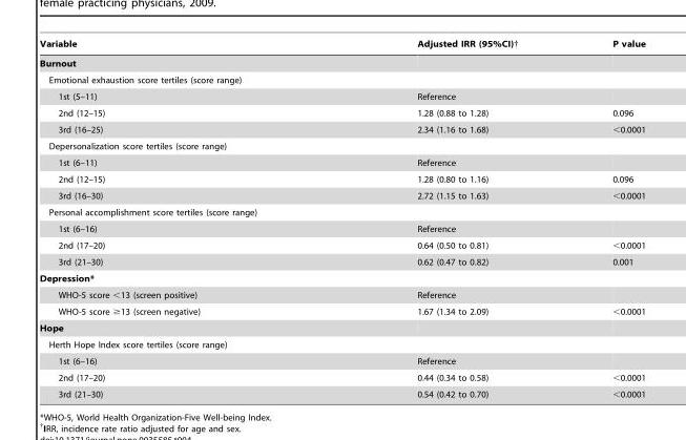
<table><thead><tr><td>Variable</td><td>Adjusted IRR (95%CI)†</td><td>P value</td></tr></thead><tbody><tr><td colspan="3">Burnout</td></tr><tr><td colspan="3">Emotional exhaustion score tertiles (score range)</td></tr><tr><td>1st (5–11)</td><td>Reference</td><td></td></tr><tr><td>2nd (12–15)</td><td>1.28 (0.88 to 1.28)</td><td>0.096</td></tr><tr><td>3rd (16–25)</td><td>2.34 (1.16 to 1.68)</td><td>&lt;0.0001</td></tr><tr><td colspan="3">Depersonalization score tertiles (score range)</td></tr><tr><td>1st (6–11)</td><td>Reference</td><td></td></tr><tr><td>2nd (12–15)</td><td>1.28 (0.80 to 1.16)</td><td>0.096</td></tr><tr><td>3rd (16–30)</td><td>2.72 (1.15 to 1.63)</td><td>&lt;0.0001</td></tr><tr><td colspan="3">Personal accomplishment score tertiles (score range)</td></tr><tr><td>1st (6–16)</td><td>Reference</td><td></td></tr><tr><td>2nd (17–20)</td><td>0.64 (0.50 to 0.81)</td><td>&lt;0.0001</td></tr><tr><td>3rd (21–30)</td><td>0.62 (0.47 to 0.82)</td><td>0.001</td></tr><tr><td colspan="3">Depression*</td></tr><tr><td>WHO-5 score &lt;13 (screen positive)</td><td>Reference</td><td></td></tr><tr><td>WHO-5 score ≥13 (screen negative)</td><td>1.67 (1.34 to 2.09)</td><td>&lt;0.0001</td></tr><tr><td colspan="3">Hope</td></tr><tr><td colspan="3">Herth Hope Index score tertiles (score range)</td></tr><tr><td>1st (6–16)</td><td>Reference</td><td></td></tr><tr><td>2nd (17–20)</td><td>0.44 (0.34 to 0.58)</td><td>&lt;0.0001</td></tr><tr><td>3rd (21–30)</td><td>0.54 (0.42 to 0.70)</td><td>&lt;0.0001</td></tr></tbody></table>